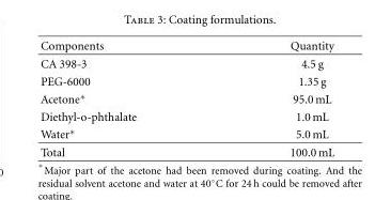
<table><thead><tr><td>Components</td><td>Quantity</td></tr></thead><tbody><tr><td>CA 398-3</td><td>4.5 g</td></tr><tr><td>PEG-6000</td><td>1.35 g</td></tr><tr><td>Acetone∗</td><td>95.0 mL</td></tr><tr><td>Diethyl-o-phthalate</td><td>1.0 mL</td></tr><tr><td>Water∗</td><td>5.0 mL</td></tr><tr><td>Total</td><td>100.0 mL</td></tr></tbody></table>